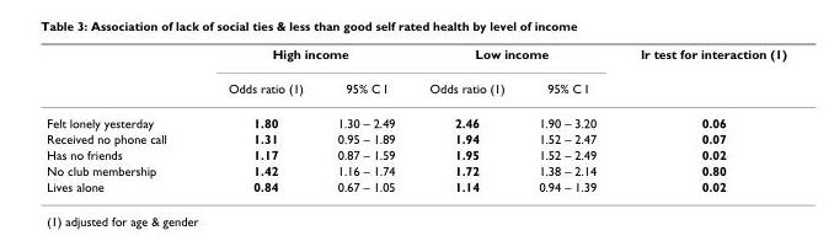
<table><thead><tr><td rowspan="2"></td><td colspan="2">High income</td><td colspan="2">Low income</td><td rowspan="2">lr test for interaction (1)</td></tr><tr><td>Odds ratio (1)</td><td>95% C I</td><td>Odds ratio (1)</td><td>95% C I</td></tr></thead><tbody><tr><td>Felt lonely yesterday</td><td>1.80</td><td>1.30 – 2.49</td><td>2.46</td><td>1.90 – 3.20</td><td>0.06</td></tr><tr><td>Received no phone call</td><td>1.31</td><td>0.95 – 1.89</td><td>1.94</td><td>1.52 – 2.47</td><td>0.07</td></tr><tr><td>Has no friends</td><td>1.17</td><td>0.87 – 1.59</td><td>1.95</td><td>1.52 – 2.49</td><td>0.02</td></tr><tr><td>No club membership</td><td>1.42</td><td>1.16 – 1.74</td><td>1.72</td><td>1.38 – 2.14</td><td>0.80</td></tr><tr><td>Lives alone</td><td>0.84</td><td>0.67 – 1.05</td><td>1.14</td><td>0.94 – 1.39</td><td>0.02</td></tr></tbody></table>